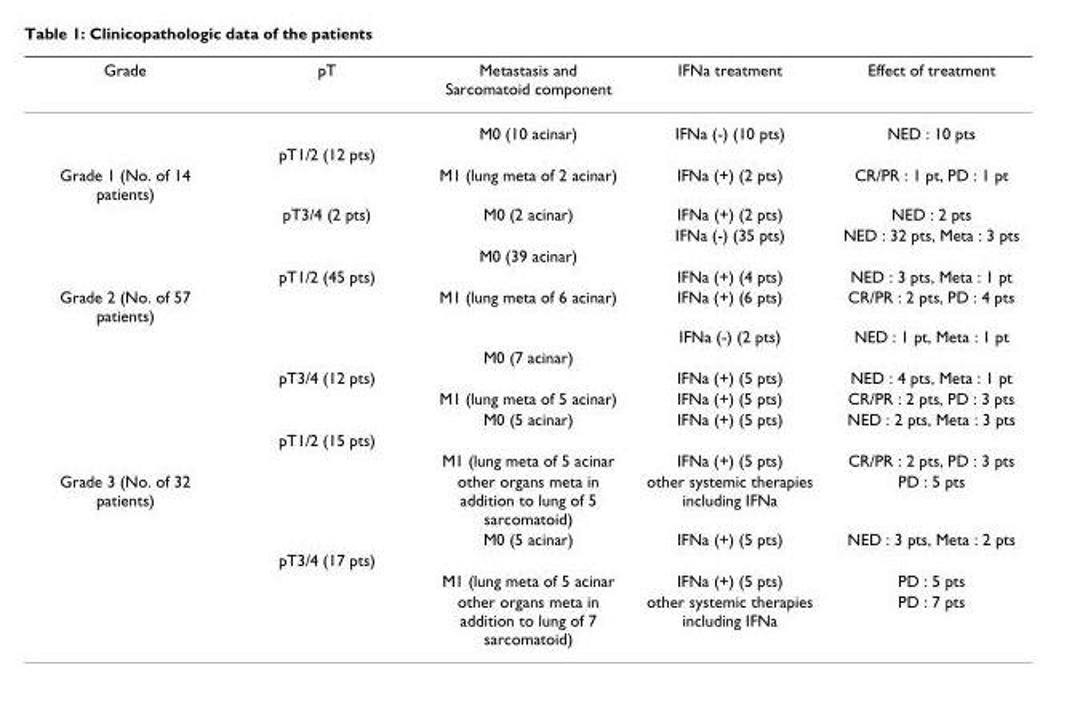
<table><thead><tr><td>Grade</td><td>pT</td><td>Metastasis and Sarcomatoid component</td><td>IFNa treatment</td><td>Effect of treatment</td></tr></thead><tbody><tr><td></td><td></td><td>M0 (10 acinar)</td><td>IFNa (-) (10 pts)</td><td>NED : 10 pts</td></tr><tr><td></td><td>pT1/2 (12 pts)</td><td></td><td></td><td></td></tr><tr><td rowspan="5">Grade 1 (No. of 14 patients)</td><td></td><td>M1 (lung meta of 2 acinar)</td><td>IFNa (+) (2 pts)</td><td>CR/PR : 1 pt, PD : 1 pt</td></tr><tr><td>pT3/4 (2 pts)</td><td>M0 (2 acinar)</td><td>IFNa (+) (2 pts)</td><td>NED : 2 pts</td></tr><tr><td></td><td></td><td>IFNa (-) (35 pts)</td><td>NED : 32 pts, Meta : 3 pts</td></tr><tr><td></td><td>M0 (39 acinar)</td><td></td><td></td></tr><tr><td>pT1/2 (45 pts)</td><td></td><td>IFNa (+) (4 pts)</td><td>NED : 3 pts, Meta : 1 pt</td></tr><tr><td rowspan="8">Grade 2 (No. of 57 patients)</td><td></td><td>M1 (lung meta of 6 acinar)</td><td>IFNa (+) (6 pts)</td><td>CR/PR : 2 pts, PD : 4 pts</td></tr><tr><td></td><td></td><td>IFNa (-) (2 pts)</td><td>NED : 1 pt, Meta : 1 pt</td></tr><tr><td></td><td>M0 (7 acinar)</td><td></td><td></td></tr><tr><td>pT3/4 (12 pts)</td><td></td><td>IFNa (+) (5 pts)</td><td>NED : 4 pts, Meta : 1 pt</td></tr><tr><td></td><td>M1 (lung meta of 5 acinar)</td><td>IFNa (+) (5 pts)</td><td>CR/PR : 2 pts, PD : 3 pts</td></tr><tr><td></td><td>M0 (5 acinar)</td><td>IFNa (+) (5 pts)</td><td>NED : 2 pts, Meta : 3 pts</td></tr><tr><td>pT1/2 (15 pts)</td><td></td><td></td><td></td></tr><tr><td></td><td>M1 (lung meta of 5 acinar</td><td>IFNa (+) (5 pts)</td><td>CR/PR : 2 pts, PD : 3 pts</td></tr><tr><td rowspan="5">Grade 3 (No. of 32 patients)</td><td></td><td>other organs meta in addition to lung of 5 sarcomatoid)</td><td>other systemic therapies including IFNa</td><td>PD : 5 pts</td></tr><tr><td></td><td>M0 (5 acinar)</td><td>IFNa (+) (5 pts)</td><td>NED : 3 pts, Meta : 2 pts</td></tr><tr><td>pT3/4 (17 pts)</td><td></td><td></td><td></td></tr><tr><td></td><td>M1 (lung meta of 5 acinar</td><td>IFNa (+) (5 pts)</td><td>PD : 5 pts</td></tr><tr><td></td><td>other organs meta in addition to lung of 7 sarcomatoid)</td><td>other systemic therapies including IFNa</td><td>PD : 7 pts</td></tr></tbody></table>